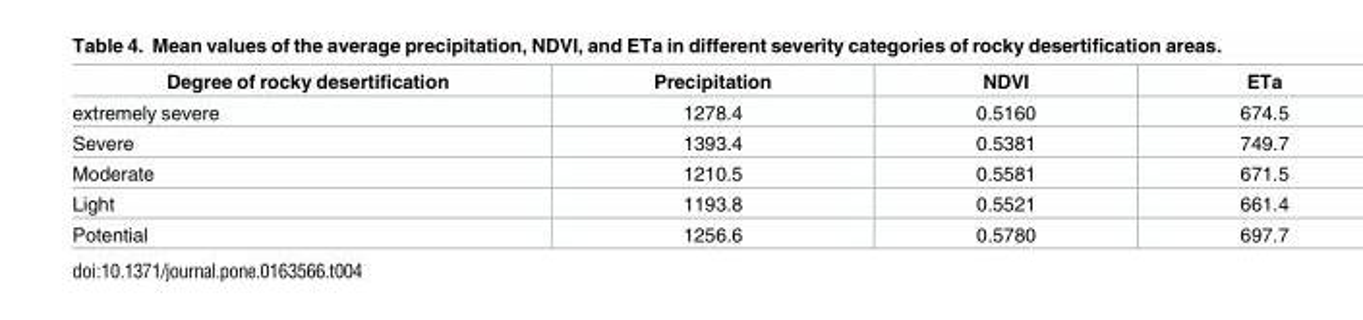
<table><thead><tr><td>Degree of rocky desertification</td><td>Precipitation</td><td>NDVI</td><td>ETa</td></tr></thead><tbody><tr><td>extremely severe</td><td>1278.4</td><td>0.5160</td><td>674.5</td></tr><tr><td>Severe</td><td>1393.4</td><td>0.5381</td><td>749.7</td></tr><tr><td>Moderate</td><td>1210.5</td><td>0.5581</td><td>671.5</td></tr><tr><td>Light</td><td>1193.8</td><td>0.5521</td><td>661.4</td></tr><tr><td>Potential</td><td>1256.6</td><td>0.5780</td><td>697.7</td></tr></tbody></table>